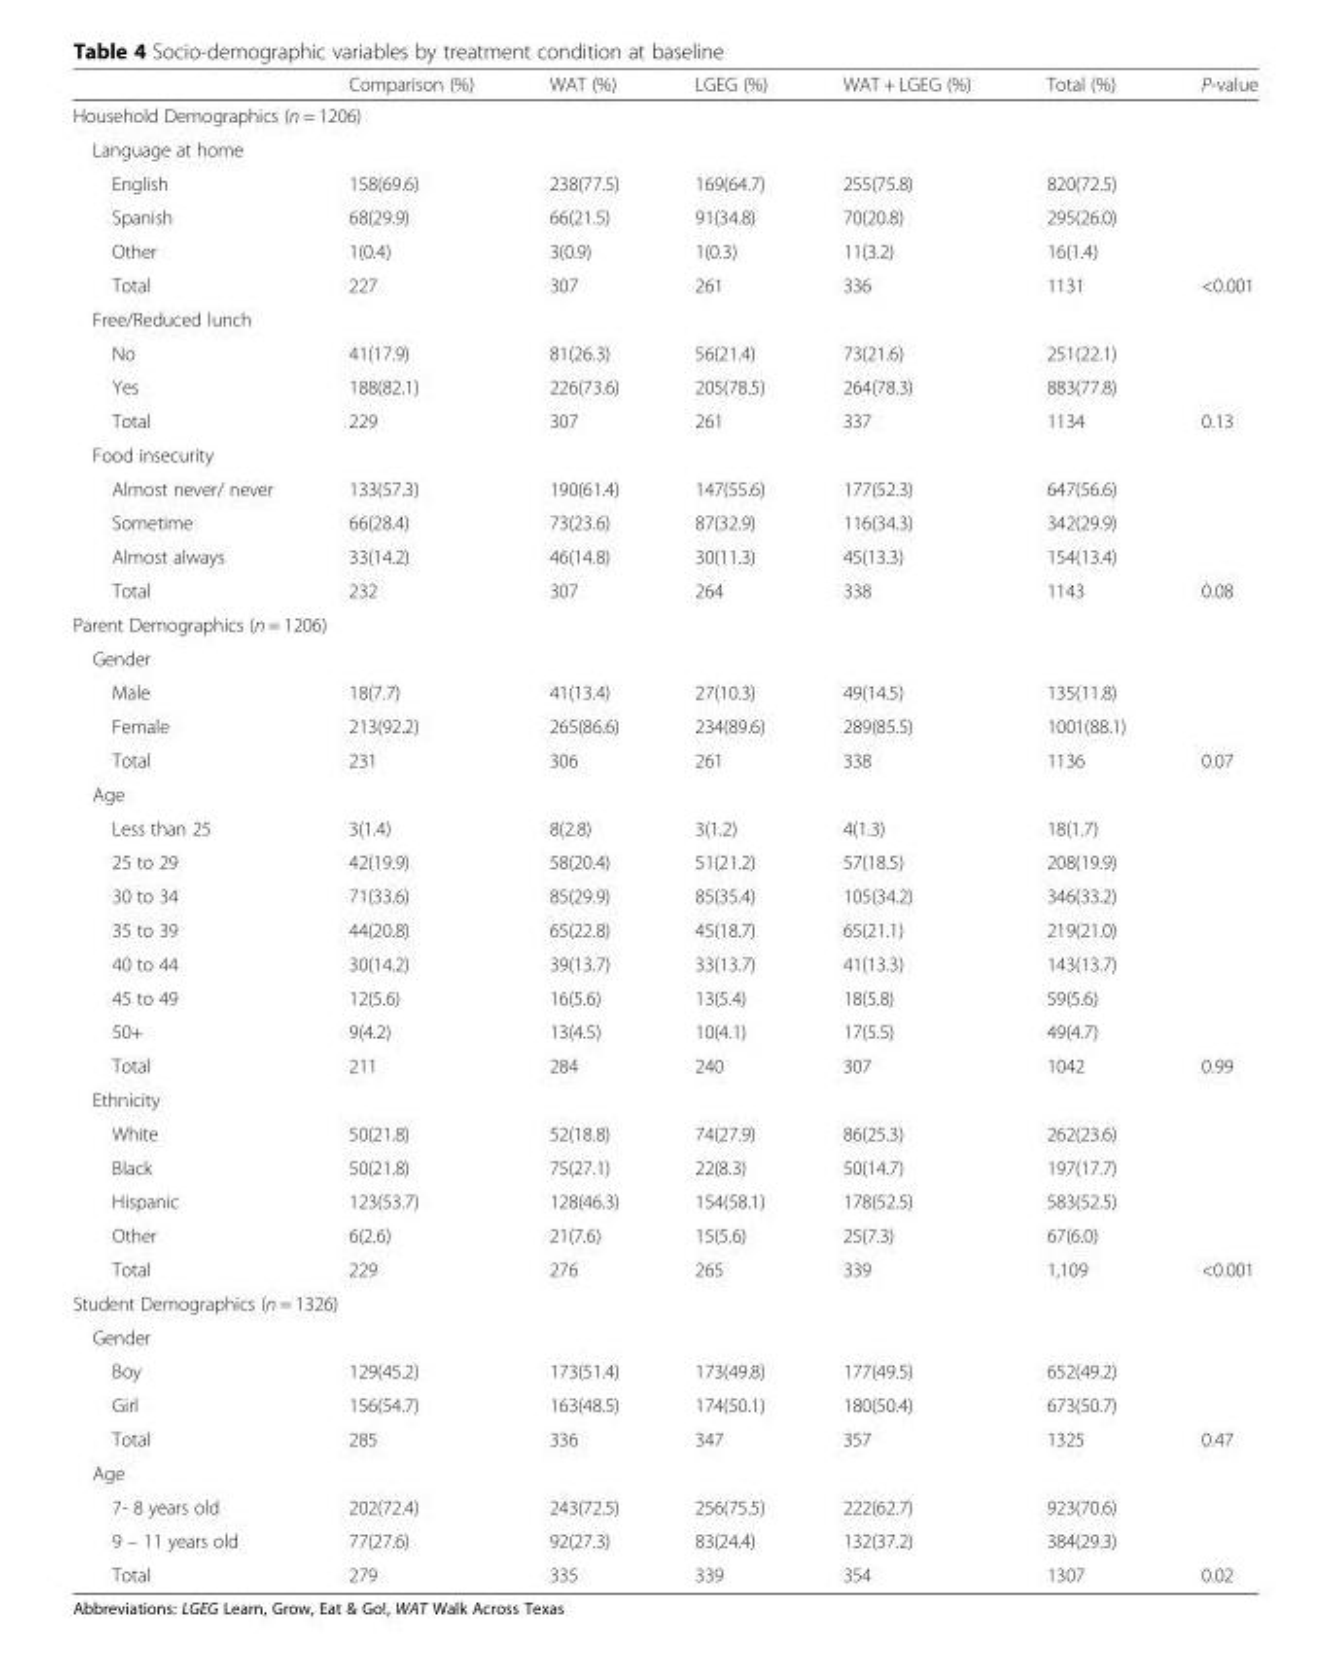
<table><thead><tr><td></td><td>Comparison (%)</td><td>WAT (%)</td><td>LGEG (%)</td><td>WAT + LGEG (%)</td><td>Total (%)</td><td>P-value</td></tr></thead><tbody><tr><td colspan="7">Household Demographics (n = 1206)</td></tr><tr><td colspan="7">Language at home</td></tr><tr><td>English</td><td>158(69.6)</td><td>238(77.5)</td><td>169(64.7)</td><td>255(75.8)</td><td>820(72.5)</td><td></td></tr><tr><td>Spanish</td><td>68(29.9)</td><td>66(21.5)</td><td>91(34.8)</td><td>70(20.8)</td><td>295(26.0)</td><td></td></tr><tr><td>Other</td><td>1(0.4)</td><td>3(0.9)</td><td>1(0.3)</td><td>11(3.2)</td><td>16(1.4)</td><td></td></tr><tr><td>Total</td><td>227</td><td>307</td><td>261</td><td>336</td><td>1131</td><td>&lt;0.001</td></tr><tr><td colspan="7">Free/Reduced lunch</td></tr><tr><td>No</td><td>41(17.9)</td><td>81(26.3)</td><td>56(21.4)</td><td>73(21.6)</td><td>251(22.1)</td><td></td></tr><tr><td>Yes</td><td>188(82.1)</td><td>226(73.6)</td><td>205(78.5)</td><td>264(78.3)</td><td>883(77.8)</td><td></td></tr><tr><td>Total</td><td>229</td><td>307</td><td>261</td><td>337</td><td>1134</td><td>0.13</td></tr><tr><td colspan="7">Food insecurity</td></tr><tr><td>Almost never/ never</td><td>133(57.3)</td><td>190(61.4)</td><td>147(55.6)</td><td>177(52.3)</td><td>647(56.6)</td><td></td></tr><tr><td>Sometime</td><td>66(28.4)</td><td>73(23.6)</td><td>87(32.9)</td><td>116(34.3)</td><td>342(29.9)</td><td></td></tr><tr><td>Almost always</td><td>33(14.2)</td><td>46(14.8)</td><td>30(11.3)</td><td>45(13.3)</td><td>154(13.4)</td><td></td></tr><tr><td>Total</td><td>232</td><td>307</td><td>264</td><td>338</td><td>1143</td><td>0.08</td></tr><tr><td colspan="7">Parent Demographics (n = 1206)</td></tr><tr><td colspan="7">Gender</td></tr><tr><td>Male</td><td>18(7.7)</td><td>41(13.4)</td><td>27(10.3)</td><td>49(14.5)</td><td>135(11.8)</td><td></td></tr><tr><td>Female</td><td>213(92.2)</td><td>265(86.6)</td><td>234(89.6)</td><td>289(85.5)</td><td>1001(88.1)</td><td></td></tr><tr><td>Total</td><td>231</td><td>306</td><td>261</td><td>338</td><td>1136</td><td>0.07</td></tr><tr><td colspan="7">Age</td></tr><tr><td>Less than 25</td><td>3(1.4)</td><td>8(2.8)</td><td>3(1.2)</td><td>4(1.3)</td><td>18(1.7)</td><td></td></tr><tr><td>25 to 29</td><td>42(19.9)</td><td>58(20.4)</td><td>51(21.2)</td><td>57(18.5)</td><td>208(19.9)</td><td></td></tr><tr><td>30 to 34</td><td>71(33.6)</td><td>85(29.9)</td><td>85(35.4)</td><td>105(34.2)</td><td>346(33.2)</td><td></td></tr><tr><td>35 to 39</td><td>44(20.8)</td><td>65(22.8)</td><td>45(18.7)</td><td>65(21.1)</td><td>219(21.0)</td><td></td></tr><tr><td>40 to 44</td><td>30(14.2)</td><td>39(13.7)</td><td>33(13.7)</td><td>41(13.3)</td><td>143(13.7)</td><td></td></tr><tr><td>45 to 49</td><td>12(5.6)</td><td>16(5.6)</td><td>13(5.4)</td><td>18(5.8)</td><td>59(5.6)</td><td></td></tr><tr><td>50+</td><td>9(4.2)</td><td>13(4.5)</td><td>10(4.1)</td><td>17(5.5)</td><td>49(4.7)</td><td></td></tr><tr><td>Total</td><td>211</td><td>284</td><td>240</td><td>307</td><td>1042</td><td>0.99</td></tr><tr><td colspan="7">Ethnicity</td></tr><tr><td>White</td><td>50(21.8)</td><td>52(18.8)</td><td>74(27.9)</td><td>86(25.3)</td><td>262(23.6)</td><td></td></tr><tr><td>Black</td><td>50(21.8)</td><td>75(27.1)</td><td>22(8.3)</td><td>50(14.7)</td><td>197(17.7)</td><td></td></tr><tr><td>Hispanic</td><td>123(53.7)</td><td>128(46.3)</td><td>154(58.1)</td><td>178(52.5)</td><td>583(52.5)</td><td></td></tr><tr><td>Other</td><td>6(2.6)</td><td>21(7.6)</td><td>15(5.6)</td><td>25(7.3)</td><td>67(6.0)</td><td></td></tr><tr><td>Total</td><td>229</td><td>276</td><td>265</td><td>339</td><td>1,109</td><td>&lt;0.001</td></tr><tr><td colspan="7">Student Demographics (n = 1326)</td></tr><tr><td colspan="7">Gender</td></tr><tr><td>Boy</td><td>129(45.2)</td><td>173(51.4)</td><td>173(49.8)</td><td>177(49.5)</td><td>652(49.2)</td><td></td></tr><tr><td>Girl</td><td>156(54.7)</td><td>163(48.5)</td><td>174(50.1)</td><td>180(50.4)</td><td>673(50.7)</td><td></td></tr><tr><td>Total</td><td>285</td><td>336</td><td>347</td><td>357</td><td>1325</td><td>0.47</td></tr><tr><td colspan="7">Age</td></tr><tr><td>7- 8 years old</td><td>202(72.4)</td><td>243(72.5)</td><td>256(75.5)</td><td>222(62.7)</td><td>923(70.6)</td><td></td></tr><tr><td>9 – 11 years old</td><td>77(27.6)</td><td>92(27.3)</td><td>83(24.4)</td><td>132(37.2)</td><td>384(29.3)</td><td></td></tr><tr><td>Total</td><td>279</td><td>335</td><td>339</td><td>354</td><td>1307</td><td>0.02</td></tr></tbody></table>